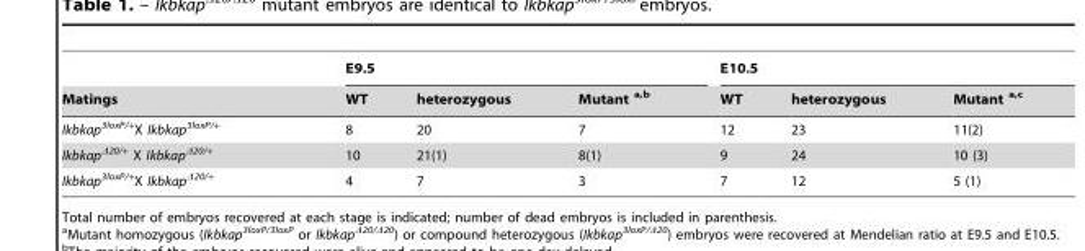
<table><thead><tr><td rowspan="2">Matings</td><td colspan="3">E9.5</td><td colspan="3">E10.5</td></tr><tr><td>WT</td><td>heterozygous</td><td>Mutant a,b</td><td>WT</td><td>heterozygous</td><td>Mutant a,c</td></tr></thead><tbody><tr><td>Ikbkap<sup>3loxP/+</sup>X Ikbkap<sup>3loxP/+</sup></td><td>8</td><td>20</td><td>7</td><td>12</td><td>23</td><td>11(2)</td></tr><tr><td>Ikbkap<sup>Δ20/+</sup> X Ikbkap<sup>Δ20/+</sup></td><td>10</td><td>21(1)</td><td>8(1)</td><td>9</td><td>24</td><td>10 (3)</td></tr><tr><td>Ikbkap<sup>3loxP/+</sup>X Ikbkap<sup>Δ20/+</sup></td><td>4</td><td>7</td><td>3</td><td>7</td><td>12</td><td>5 (1)</td></tr></tbody></table>